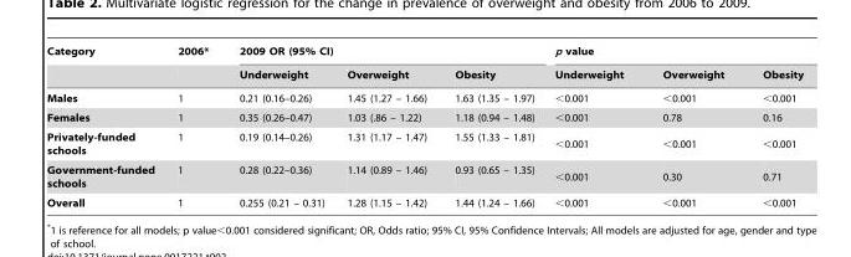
<table><thead><tr><td rowspan="2">Category</td><td rowspan="2">2006*</td><td colspan="3">2009 OR (95% CI)</td><td colspan="3">p value</td></tr><tr><td>Underweight</td><td>Overweight</td><td>Obesity</td><td>Underweight</td><td>Overweight</td><td>Obesity</td></tr></thead><tbody><tr><td>Males</td><td>1</td><td>0.21 (0.16–0.26)</td><td>1.45 (1.27 – 1.66)</td><td>1.63 (1.35 – 1.97)</td><td>&lt;0.001</td><td>&lt;0.001</td><td>&lt;0.001</td></tr><tr><td>Females</td><td>1</td><td>0.35 (0.26–0.47)</td><td>1.03 (.86 – 1.22)</td><td>1.18 (0.94 – 1.48)</td><td>&lt;0.001</td><td>0.78</td><td>0.16</td></tr><tr><td>Privately-funded schools</td><td>1</td><td>0.19 (0.14–0.26)</td><td>1.31 (1.17 – 1.47)</td><td>1.55 (1.33 – 1.81)</td><td>&lt;0.001</td><td>&lt;0.001</td><td>&lt;0.001</td></tr><tr><td>Government-funded schools</td><td>1</td><td>0.28 (0.22–0.36)</td><td>1.14 (0.89 – 1.46)</td><td>0.93 (0.65 – 1.35)</td><td>&lt;0.001</td><td>0.30</td><td>0.71</td></tr><tr><td>Overall</td><td>1</td><td>0.255 (0.21 – 0.31)</td><td>1.28 (1.15 – 1.42)</td><td>1.44 (1.24 – 1.66)</td><td>&lt;0.001</td><td>&lt;0.001</td><td>&lt;0.001</td></tr></tbody></table>